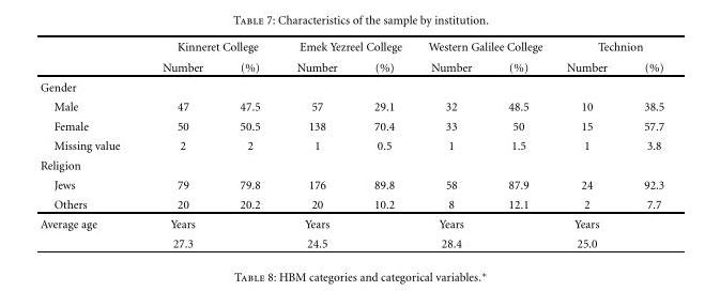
<table><thead><tr><td rowspan="2"></td><td colspan="2">Kinneret College</td><td colspan="2">Emek Yezreel College</td><td colspan="2">Western Galilee College</td><td colspan="2">Technion</td></tr><tr><td>Number</td><td>(%)</td><td>Number</td><td>(%)</td><td>Number</td><td>(%)</td><td>Number</td><td>(%)</td></tr></thead><tbody><tr><td colspan="9">Gender</td></tr><tr><td>Male</td><td>47</td><td>47.5</td><td>57</td><td>29.1</td><td>32</td><td>48.5</td><td>10</td><td>38.5</td></tr><tr><td>Female</td><td>50</td><td>50.5</td><td>138</td><td>70.4</td><td>33</td><td>50</td><td>15</td><td>57.7</td></tr><tr><td>Missing value</td><td>2</td><td>2</td><td>1</td><td>0.5</td><td>1</td><td>1.5</td><td>1</td><td>3.8</td></tr><tr><td colspan="9">Religion</td></tr><tr><td>Jews</td><td>79</td><td>79.8</td><td>176</td><td>89.8</td><td>58</td><td>87.9</td><td>24</td><td>92.3</td></tr><tr><td>Others</td><td>20</td><td>20.2</td><td>20</td><td>10.2</td><td>8</td><td>12.1</td><td>2</td><td>7.7</td></tr><tr><td rowspan="2">Average age</td><td>Years</td><td></td><td>Years</td><td></td><td>Years</td><td></td><td>Years</td><td></td></tr><tr><td>27.3</td><td></td><td>24.5</td><td></td><td>28.4</td><td></td><td>25.0</td><td></td></tr></tbody></table>